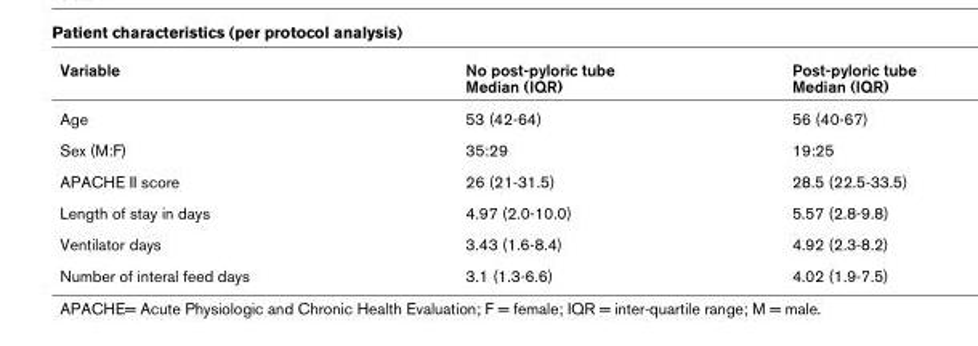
<table><thead><tr><td>Variable</td><td>No post-pyloric tube Median (IQR)</td><td>Post-pyloric tube Median (IQR)</td></tr></thead><tbody><tr><td>Age</td><td>53 (42-64)</td><td>56 (40-67)</td></tr><tr><td>Sex (M:F)</td><td>35:29</td><td>19:25</td></tr><tr><td>APACHE II score</td><td>26 (21-31.5)</td><td>28.5 (22.5-33.5)</td></tr><tr><td>Length of stay in days</td><td>4.97 (2.0-10.0)</td><td>5.57 (2.8-9.8)</td></tr><tr><td>Ventilator days</td><td>3.43 (1.6-8.4)</td><td>4.92 (2.3-8.2)</td></tr><tr><td>Number of interal feed days</td><td>3.1 (1.3-6.6)</td><td>4.02 (1.9-7.5)</td></tr></tbody></table>